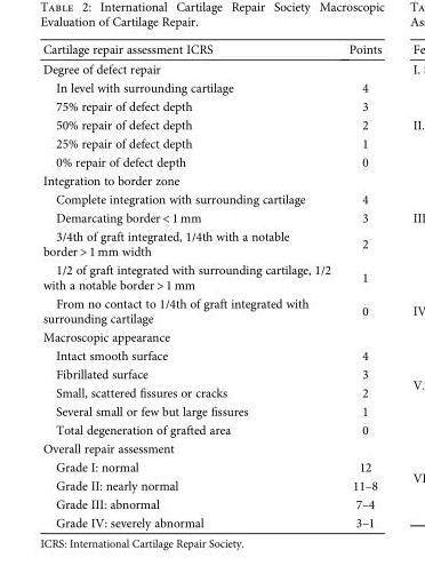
<table><thead><tr><td>Cartilage repair assessment ICRS</td><td>Points</td></tr></thead><tbody><tr><td colspan="2">Degree of defect repair</td></tr><tr><td>In level with surrounding cartilage</td><td>4</td></tr><tr><td>75% repair of defect depth</td><td>3</td></tr><tr><td>50% repair of defect depth</td><td>2</td></tr><tr><td>25% repair of defect depth</td><td>1</td></tr><tr><td>0% repair of defect depth</td><td>0</td></tr><tr><td colspan="2">Integration to border zone</td></tr><tr><td>Complete integration with surrounding cartilage</td><td>4</td></tr><tr><td>Demarcating border &lt; 1 mm</td><td>3</td></tr><tr><td>3/4th of graft integrated, 1/4th with a notable border &gt; 1 mm width</td><td>2</td></tr><tr><td>1/2 of graft integrated with surrounding cartilage, 1/2 with a notable border &gt; 1 mm</td><td>1</td></tr><tr><td>From no contact to 1/4th of graft integrated with surrounding cartilage</td><td>0</td></tr><tr><td colspan="2">Macroscopic appearance</td></tr><tr><td>Intact smooth surface</td><td>4</td></tr><tr><td>Fibrillated surface</td><td>3</td></tr><tr><td>Small, scattered fissures or cracks</td><td>2</td></tr><tr><td>Several small or few but large fissures</td><td>1</td></tr><tr><td>Total degeneration of grafted area</td><td>0</td></tr><tr><td colspan="2">Overall repair assessment</td></tr><tr><td>Grade I: normal</td><td>12</td></tr><tr><td>Grade II: nearly normal</td><td>11–8</td></tr><tr><td>Grade III: abnormal</td><td>7–4</td></tr><tr><td>Grade IV: severely abnormal</td><td>3–1</td></tr></tbody></table>